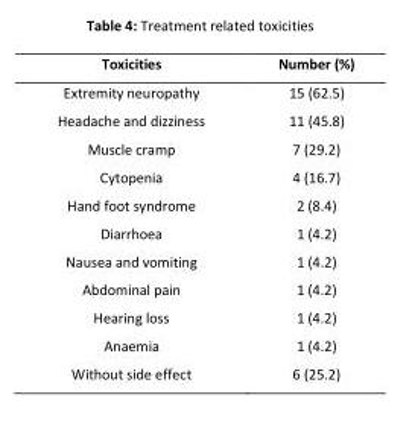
<table><thead><tr><td>Toxicities</td><td>Number (%)</td></tr></thead><tbody><tr><td>Extremity neuropathy</td><td>15 (62.5)</td></tr><tr><td>Headache and dizziness</td><td>11 (45.8)</td></tr><tr><td>Muscle cramp</td><td>7 (29.2)</td></tr><tr><td>Cytopenia</td><td>4 (16.7)</td></tr><tr><td>Hand foot syndrome</td><td>2 (8.4)</td></tr><tr><td>Diarrhoea</td><td>1 (4.2)</td></tr><tr><td>Nausea and vomiting</td><td>1 (4.2)</td></tr><tr><td>Abdominal pain</td><td>1 (4.2)</td></tr><tr><td>Hearing loss</td><td>1 (4.2)</td></tr><tr><td>Anaemia</td><td>1 (4.2)</td></tr><tr><td>Without side effect</td><td>6 (25.2)</td></tr></tbody></table>